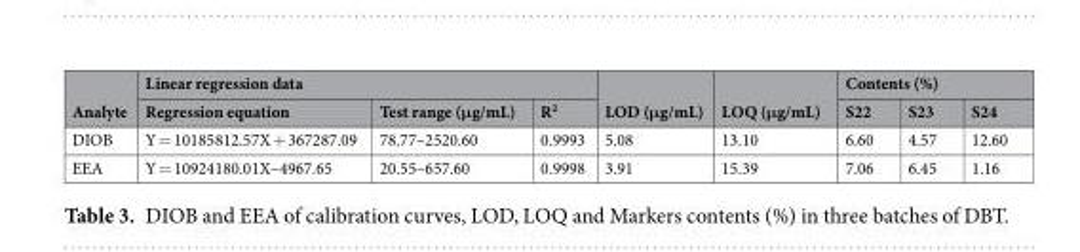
<table><thead><tr><td rowspan="2">Analyte</td><td colspan="3">Linear regression data</td><td rowspan="2">LOD (μg/mL)</td><td rowspan="2">LOQ (μg/mL)</td><td colspan="3">Contents (%)</td></tr><tr><td>Regression equation</td><td>Test range (μg/mL)</td><td>R<sup>2</sup></td><td>S22</td><td>S23</td><td>S24</td></tr></thead><tbody><tr><td>DIOB</td><td>Y = 10185812.57X + 367287.09</td><td>78.77–2520.60</td><td>0.9993</td><td>5.08</td><td>13.10</td><td>6.60</td><td>4.57</td><td>12.60</td></tr><tr><td>EEA</td><td>Y = 10924180.01X–4967.65</td><td>20.55–657.60</td><td>0.9998</td><td>3.91</td><td>15.39</td><td>7.06</td><td>6.45</td><td>1.16</td></tr></tbody></table>